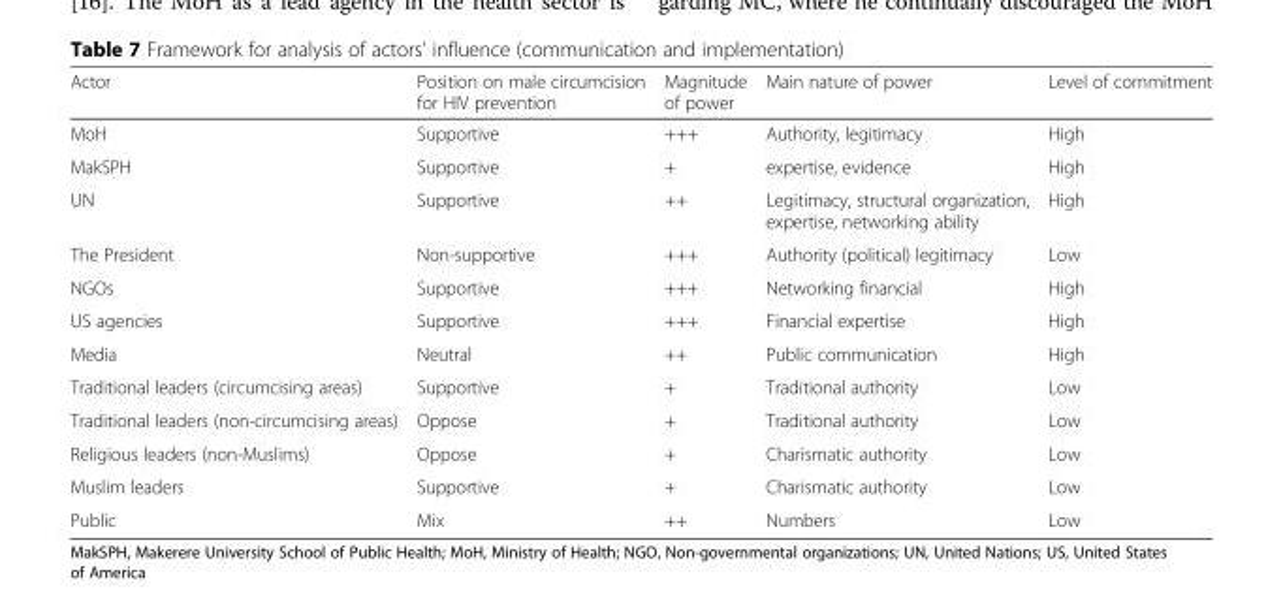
<table><thead><tr><td>Actor</td><td>Position on male circumcision for HIV prevention</td><td>Magnitude of power</td><td>Main nature of power</td><td>Level of commitment</td></tr></thead><tbody><tr><td>MoH</td><td>Supportive</td><td>+++</td><td>Authority, legitimacy</td><td>High</td></tr><tr><td>MakSPH</td><td>Supportive</td><td>+</td><td>expertise, evidence</td><td>High</td></tr><tr><td>UN</td><td>Supportive</td><td>++</td><td>Legitimacy, structural organization, expertise, networking ability</td><td>High</td></tr><tr><td>The President</td><td>Non-supportive</td><td>+++</td><td>Authority (political) legitimacy</td><td>Low</td></tr><tr><td>NGOs</td><td>Supportive</td><td>+++</td><td>Networking financial</td><td>High</td></tr><tr><td>US agencies</td><td>Supportive</td><td>+++</td><td>Financial expertise</td><td>High</td></tr><tr><td>Media</td><td>Neutral</td><td>++</td><td>Public communication</td><td>High</td></tr><tr><td>Traditional leaders (circumcising areas)</td><td>Supportive</td><td>+</td><td>Traditional authority</td><td>Low</td></tr><tr><td>Traditional leaders (non-circumcising areas)</td><td>Oppose</td><td>+</td><td>Traditional authority</td><td>Low</td></tr><tr><td>Religious leaders (non-Muslims)</td><td>Oppose</td><td>+</td><td>Charismatic authority</td><td>Low</td></tr><tr><td>Muslim leaders</td><td>Supportive</td><td>+</td><td>Charismatic authority</td><td>Low</td></tr><tr><td>Public</td><td>Mix</td><td>++</td><td>Numbers</td><td>Low</td></tr></tbody></table>